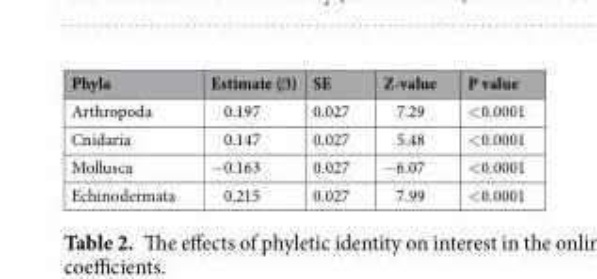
<table><thead><tr><td>Phyla</td><td>Estimate (β)</td><td>SE</td><td>Z-value</td><td>P value</td></tr></thead><tbody><tr><td>Arthropoda</td><td>0.197</td><td>0.027</td><td>7.29</td><td>&lt;0.0001</td></tr><tr><td>Cnidaria</td><td>0.147</td><td>0.027</td><td>5.48</td><td>&lt;0.0001</td></tr><tr><td>Mollusca</td><td>−0.163</td><td>0.027</td><td>−6.07</td><td>&lt;0.0001</td></tr><tr><td>Echinodermata</td><td>0.215</td><td>0.027</td><td>7.99</td><td>&lt;0.0001</td></tr></tbody></table>